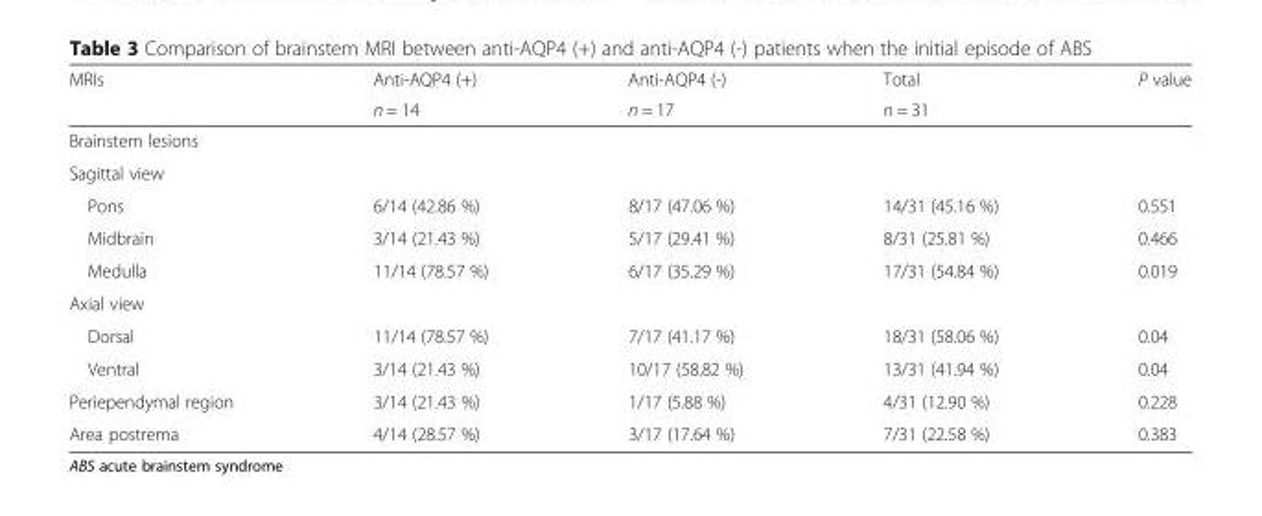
<table><thead><tr><td rowspan="2">MRIs</td><td rowspan="2">Anti-AQP4 (+) n = 14</td><td rowspan="2">Anti-AQP4 (-) n = 17</td><td rowspan="2">Total n = 31</td><td rowspan="2">P value</td></tr><tr></tr></thead><tbody><tr><td colspan="5">Brainstem lesions</td></tr><tr><td colspan="5">Sagittal view</td></tr><tr><td>Pons</td><td>6/14 (42.86 %)</td><td>8/17 (47.06 %)</td><td>14/31 (45.16 %)</td><td>0.551</td></tr><tr><td>Midbrain</td><td>3/14 (21.43 %)</td><td>5/17 (29.41 %)</td><td>8/31 (25.81 %)</td><td>0.466</td></tr><tr><td>Medulla</td><td>11/14 (78.57 %)</td><td>6/17 (35.29 %)</td><td>17/31 (54.84 %)</td><td>0.019</td></tr><tr><td colspan="5">Axial view</td></tr><tr><td>Dorsal</td><td>11/14 (78.57 %)</td><td>7/17 (41.17 %)</td><td>18/31 (58.06 %)</td><td>0.04</td></tr><tr><td>Ventral</td><td>3/14 (21.43 %)</td><td>10/17 (58.82 %)</td><td>13/31 (41.94 %)</td><td>0.04</td></tr><tr><td>Periependymal region</td><td>3/14 (21.43 %)</td><td>1/17 (5.88 %)</td><td>4/31 (12.90 %)</td><td>0.228</td></tr><tr><td>Area postrema</td><td>4/14 (28.57 %)</td><td>3/17 (17.64 %)</td><td>7/31 (22.58 %)</td><td>0.383</td></tr></tbody></table>